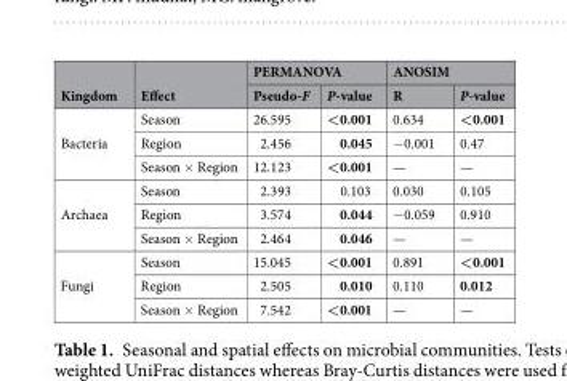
<table><thead><tr><td rowspan="2">Kingdom</td><td rowspan="2">Effect</td><td colspan="2">PERMANOVA</td><td colspan="2">ANOSIM</td></tr><tr><td>Pseudo-F</td><td>P-value</td><td>R</td><td>P-value</td></tr></thead><tbody><tr><td rowspan="3">Bacteria</td><td>Season</td><td>26.595</td><td>&lt;0.001</td><td>0.634</td><td>&lt;0.001</td></tr><tr><td>Region</td><td>2.456</td><td>0.045</td><td>−0.001</td><td>0.47</td></tr><tr><td>Season × Region</td><td>12.123</td><td>&lt;0.001</td><td>—</td><td>—</td></tr><tr><td rowspan="3">Archaea</td><td>Season</td><td>2.393</td><td>0.103</td><td>0.030</td><td>0.105</td></tr><tr><td>Region</td><td>3.574</td><td>0.044</td><td>−0.059</td><td>0.910</td></tr><tr><td>Season × Region</td><td>2.464</td><td>0.046</td><td>—</td><td>—</td></tr><tr><td rowspan="3">Fungi</td><td>Season</td><td>15.045</td><td>&lt;0.001</td><td>0.891</td><td>&lt;0.001</td></tr><tr><td>Region</td><td>2.505</td><td>0.010</td><td>0.110</td><td>0.012</td></tr><tr><td>Season × Region</td><td>7.542</td><td>&lt;0.001</td><td>—</td><td>—</td></tr></tbody></table>